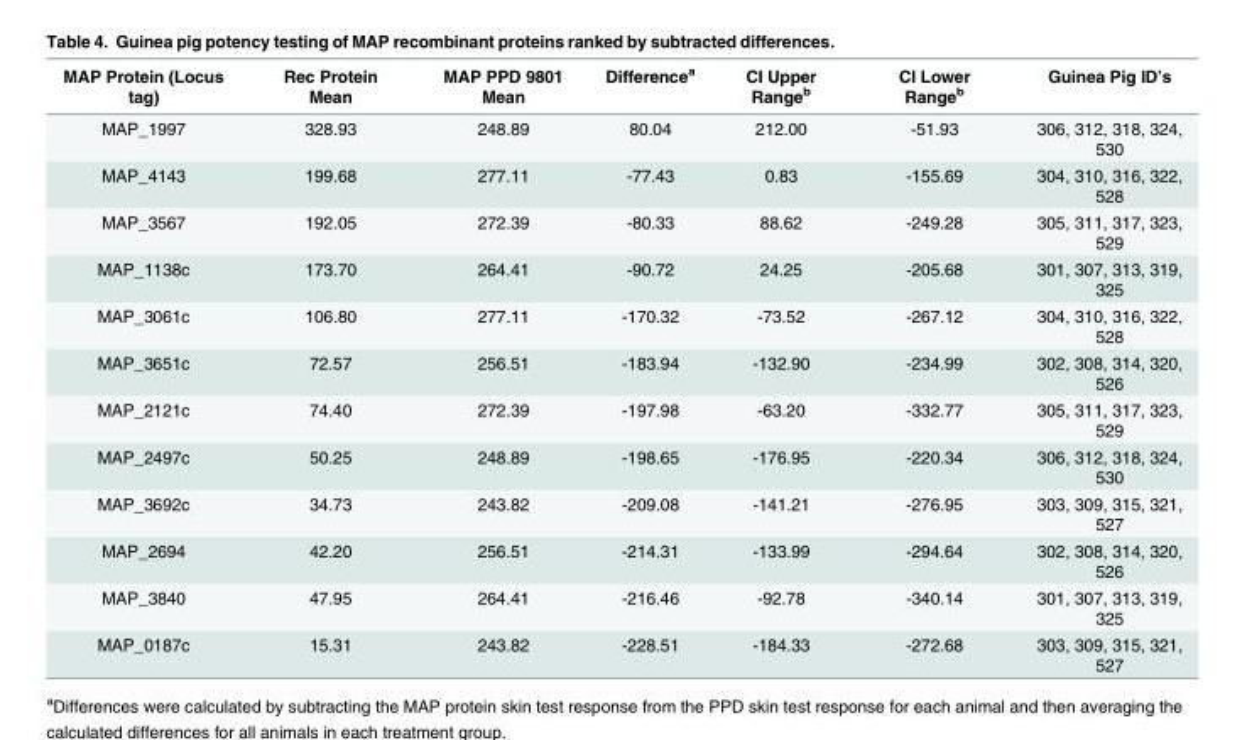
<table><thead><tr><td>MAP Protein (Locus tag)</td><td>Rec Protein Mean</td><td>MAP PPD 9801 Mean</td><td>Difference<sup>a</sup></td><td>CI Upper Range<sup>b</sup></td><td>CI Lower Range<sup>b</sup></td><td>Guinea Pig ID’s</td></tr></thead><tbody><tr><td>MAP_1997</td><td>328.93</td><td>248.89</td><td>80.04</td><td>212.00</td><td>-51.93</td><td>306, 312, 318, 324, 530</td></tr><tr><td>MAP_4143</td><td>199.68</td><td>277.11</td><td>-77.43</td><td>0.83</td><td>-155.69</td><td>304, 310, 316, 322, 528</td></tr><tr><td>MAP_3567</td><td>192.05</td><td>272.39</td><td>-80.33</td><td>88.62</td><td>-249.28</td><td>305, 311, 317, 323, 529</td></tr><tr><td>MAP_1138c</td><td>173.70</td><td>264.41</td><td>-90.72</td><td>24.25</td><td>-205.68</td><td>301, 307, 313, 319, 325</td></tr><tr><td>MAP_3061c</td><td>106.80</td><td>277.11</td><td>-170.32</td><td>-73.52</td><td>-267.12</td><td>304, 310, 316, 322, 528</td></tr><tr><td>MAP_3651c</td><td>72.57</td><td>256.51</td><td>-183.94</td><td>-132.90</td><td>-234.99</td><td>302, 308, 314, 320, 526</td></tr><tr><td>MAP_2121c</td><td>74.40</td><td>272.39</td><td>-197.98</td><td>-63.20</td><td>-332.77</td><td>305, 311, 317, 323, 529</td></tr><tr><td>MAP_2497c</td><td>50.25</td><td>248.89</td><td>-198.65</td><td>-176.95</td><td>-220.34</td><td>306, 312, 318, 324, 530</td></tr><tr><td>MAP_3692c</td><td>34.73</td><td>243.82</td><td>-209.08</td><td>-141.21</td><td>-276.95</td><td>303, 309, 315, 321, 527</td></tr><tr><td>MAP_2694</td><td>42.20</td><td>256.51</td><td>-214.31</td><td>-133.99</td><td>-294.64</td><td>302, 308, 314, 320, 526</td></tr><tr><td>MAP_3840</td><td>47.95</td><td>264.41</td><td>-216.46</td><td>-92.78</td><td>-340.14</td><td>301, 307, 313, 319, 325</td></tr><tr><td>MAP_0187c</td><td>15.31</td><td>243.82</td><td>-228.51</td><td>-184.33</td><td>-272.68</td><td>303, 309, 315, 321, 527</td></tr></tbody></table>